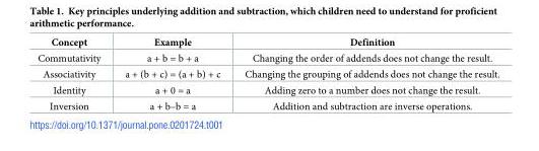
<table><thead><tr><td>Concept</td><td>Example</td><td>Definition</td></tr></thead><tbody><tr><td>Commutativity</td><td>a + b = b + a</td><td>Changing the order of addends does not change the result.</td></tr><tr><td>Associativity</td><td>a + (b + c) = (a + b) + c</td><td>Changing the grouping of addends does not change the result.</td></tr><tr><td>Identity</td><td>a + 0 = a</td><td>Adding zero to a number does not change the result.</td></tr><tr><td>Inversion</td><td>a + b–b = a</td><td>Addition and subtraction are inverse operations.</td></tr></tbody></table>